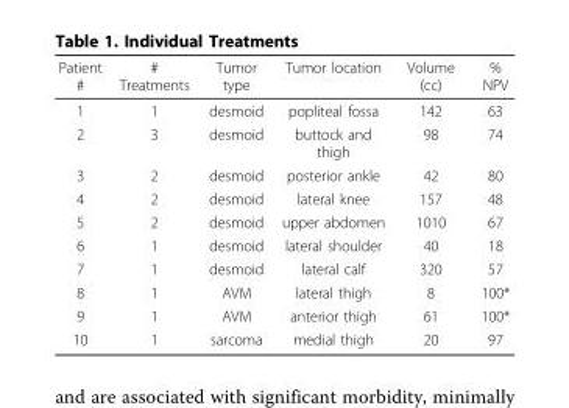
<table><thead><tr><td>Patient #</td><td># Treatments</td><td>Tumor type</td><td>Tumor location</td><td>Volume (cc)</td><td>% NPV</td></tr></thead><tbody><tr><td>1</td><td>1</td><td>desmoid</td><td>popliteal fossa</td><td>142</td><td>63</td></tr><tr><td>2</td><td>3</td><td>desmoid</td><td>buttock and thigh</td><td>98</td><td>74</td></tr><tr><td>3</td><td>2</td><td>desmoid</td><td>posterior ankle</td><td>42</td><td>80</td></tr><tr><td>4</td><td>2</td><td>desmoid</td><td>lateral knee</td><td>157</td><td>48</td></tr><tr><td>5</td><td>2</td><td>desmoid</td><td>upper abdomen</td><td>1010</td><td>67</td></tr><tr><td>6</td><td>1</td><td>desmoid</td><td>lateral shoulder</td><td>40</td><td>18</td></tr><tr><td>7</td><td>1</td><td>desmoid</td><td>lateral calf</td><td>320</td><td>57</td></tr><tr><td>8</td><td>1</td><td>AVM</td><td>lateral thigh</td><td>8</td><td>100*</td></tr><tr><td>9</td><td>1</td><td>AVM</td><td>anterior thigh</td><td>61</td><td>100*</td></tr><tr><td>10</td><td>1</td><td>sarcoma</td><td>medial thigh</td><td>20</td><td>97</td></tr></tbody></table>